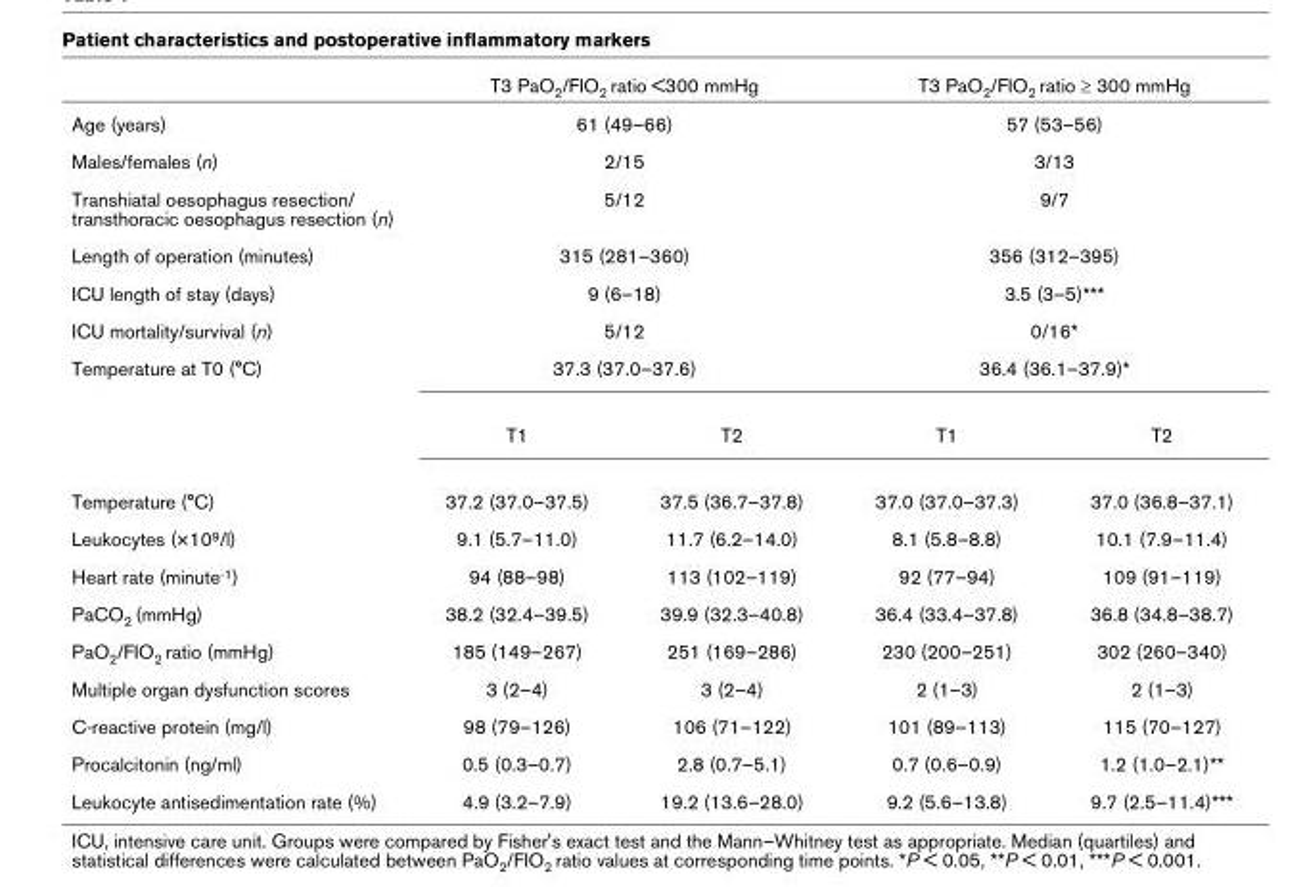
<table><thead><tr><td></td><td colspan="2">T3 PaO2/FIO2 ratio &lt;300 mmHg</td><td colspan="2">T3 PaO2/FIO2 ratio ≥ 300 mmHg</td></tr></thead><tbody><tr><td>Age (years)</td><td colspan="2">61 (49–66)</td><td colspan="2">57 (53–56)</td></tr><tr><td>Males/females (n)</td><td colspan="2">2/15</td><td colspan="2">3/13</td></tr><tr><td>Transhiatal oesophagus resection/ transthoracic oesophagus resection (n)</td><td colspan="2">5/12</td><td colspan="2">9/7</td></tr><tr><td>Length of operation (minutes)</td><td colspan="2">315 (281–360)</td><td colspan="2">356 (312–395)</td></tr><tr><td>ICU length of stay (days)</td><td colspan="2">9 (6–18)</td><td colspan="2">3.5 (3–5)***</td></tr><tr><td>ICU mortality/survival (n)</td><td colspan="2">5/12</td><td colspan="2">0/16*</td></tr><tr><td rowspan="2">Temperature at T0 (°C)</td><td colspan="2">37.3 (37.0–37.6)</td><td colspan="2">36.4 (36.1–37.9)*</td></tr><tr><td>T1</td><td>T2</td><td>T1</td><td>T2</td></tr><tr><td>Temperature (°C)</td><td>37.2 (37.0–37.5)</td><td>37.5 (36.7–37.8)</td><td>37.0 (37.0–37.3)</td><td>37.0 (36.8–37.1)</td></tr><tr><td>Leukocytes (×109/l)</td><td>9.1 (5.7–11.0)</td><td>11.7 (6.2–14.0)</td><td>8.1 (5.8–8.8)</td><td>10.1 (7.9–11.4)</td></tr><tr><td>Heart rate (minute-1)</td><td>94 (88–98)</td><td>113 (102–119)</td><td>92 (77–94)</td><td>109 (91–119)</td></tr><tr><td>PaCO2 (mmHg)</td><td>38.2 (32.4–39.5)</td><td>39.9 (32.3–40.8)</td><td>36.4 (33.4–37.8)</td><td>36.8 (34.8–38.7)</td></tr><tr><td>PaO2/FIO2 ratio (mmHg)</td><td>185 (149–267)</td><td>251 (169–286)</td><td>230 (200–251)</td><td>302 (260–340)</td></tr><tr><td>Multiple organ dysfunction scores</td><td>3 (2–4)</td><td>3 (2–4)</td><td>2 (1–3)</td><td>2 (1–3)</td></tr><tr><td>C-reactive protein (mg/l)</td><td>98 (79–126)</td><td>106 (71–122)</td><td>101 (89–113)</td><td>115 (70–127)</td></tr><tr><td>Procalcitonin (ng/ml)</td><td>0.5 (0.3–0.7)</td><td>2.8 (0.7–5.1)</td><td>0.7 (0.6–0.9)</td><td>1.2 (1.0–2.1)**</td></tr><tr><td>Leukocyte antisedimentation rate (%)</td><td>4.9 (3.2–7.9)</td><td>19.2 (13.6–28.0)</td><td>9.2 (5.6–13.8)</td><td>9.7 (2.5–11.4)***</td></tr></tbody></table>